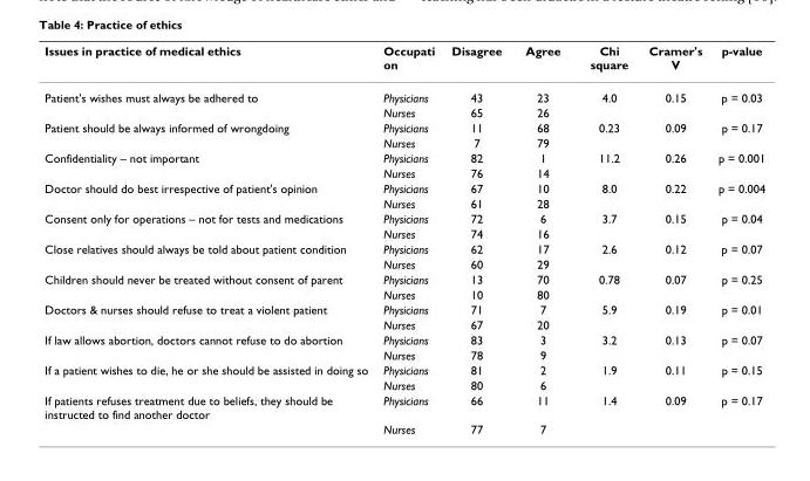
<table><thead><tr><td>Issues in practice of medical ethics</td><td>Occupati on</td><td>Disagree</td><td>Agree</td><td>Chi square</td><td>Cramer&#x27;s V</td><td>p-value</td></tr></thead><tbody><tr><td rowspan="2">Patient&#x27;s wishes must always be adhered to</td><td>Physicians</td><td>43</td><td>23</td><td>4.0</td><td>0.15</td><td>p = 0.03</td></tr><tr><td>Nurses</td><td>65</td><td>26</td><td></td><td></td><td></td></tr><tr><td rowspan="2">Patient should be always informed of wrongdoing</td><td>Physicians</td><td>11</td><td>68</td><td>0.23</td><td>0.09</td><td>p = 0.17</td></tr><tr><td>Nurses</td><td>7</td><td>79</td><td></td><td></td><td></td></tr><tr><td rowspan="2">Confidentiality – not important</td><td>Physicians</td><td>82</td><td>1</td><td>11.2</td><td>0.26</td><td>p = 0.001</td></tr><tr><td>Nurses</td><td>76</td><td>14</td><td></td><td></td><td></td></tr><tr><td rowspan="2">Doctor should do best irrespective of patient&#x27;s opinion</td><td>Physicians</td><td>67</td><td>10</td><td>8.0</td><td>0.22</td><td>p = 0.004</td></tr><tr><td>Nurses</td><td>61</td><td>28</td><td></td><td></td><td></td></tr><tr><td rowspan="2">Consent only for operations – not for tests and medications</td><td>Physicians</td><td>72</td><td>6</td><td>3.7</td><td>0.15</td><td>p = 0.04</td></tr><tr><td>Nurses</td><td>74</td><td>16</td><td></td><td></td><td></td></tr><tr><td rowspan="2">Close relatives should always be told about patient condition</td><td>Physicians</td><td>62</td><td>17</td><td>2.6</td><td>0.12</td><td>p = 0.07</td></tr><tr><td>Nurses</td><td>60</td><td>29</td><td></td><td></td><td></td></tr><tr><td rowspan="2">Children should never be treated without consent of parent</td><td>Physicians</td><td>13</td><td>70</td><td>0.78</td><td>0.07</td><td>p = 0.25</td></tr><tr><td>Nurses</td><td>10</td><td>80</td><td></td><td></td><td></td></tr><tr><td rowspan="2">Doctors &amp; nurses should refuse to treat a violent patient</td><td>Physicians</td><td>71</td><td>7</td><td>5.9</td><td>0.19</td><td>p = 0.01</td></tr><tr><td>Nurses</td><td>67</td><td>20</td><td></td><td></td><td></td></tr><tr><td rowspan="2">If law allows abortion, doctors cannot refuse to do abortion</td><td>Physicians</td><td>83</td><td>3</td><td>3.2</td><td>0.13</td><td>p = 0.07</td></tr><tr><td>Nurses</td><td>78</td><td>9</td><td></td><td></td><td></td></tr><tr><td rowspan="2">If a patient wishes to die, he or she should be assisted in doing so</td><td>Physicians</td><td>81</td><td>2</td><td>1.9</td><td>0.11</td><td>p = 0.15</td></tr><tr><td>Nurses</td><td>80</td><td>6</td><td></td><td></td><td></td></tr><tr><td rowspan="2">If patients refuses treatment due to beliefs, they should be instructed to find another doctor</td><td>Physicians</td><td>66</td><td>11</td><td>1.4</td><td>0.09</td><td>p = 0.17</td></tr><tr><td>Nurses</td><td>77</td><td>7</td><td></td><td></td><td></td></tr></tbody></table>